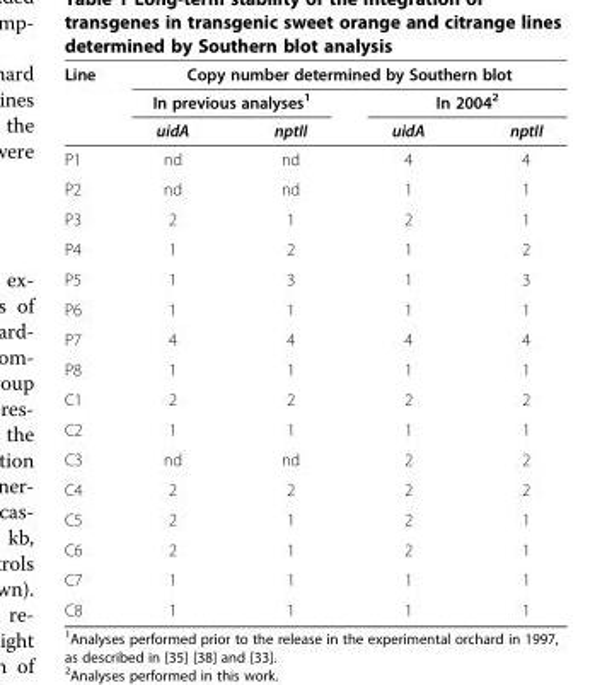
<table><thead><tr><td rowspan="3">Line</td><td colspan="4">Copy number determined by Southern blot</td></tr><tr><td colspan="2">In previous analyses<sup>1</sup></td><td colspan="2">In 2004<sup>2</sup></td></tr><tr><td>uidA</td><td>nptII</td><td>uidA</td><td>nptII</td></tr></thead><tbody><tr><td>P1</td><td>nd</td><td>nd</td><td>4</td><td>4</td></tr><tr><td>P2</td><td>nd</td><td>nd</td><td>1</td><td>1</td></tr><tr><td>P3</td><td>2</td><td>1</td><td>2</td><td>1</td></tr><tr><td>P4</td><td>1</td><td>2</td><td>1</td><td>2</td></tr><tr><td>P5</td><td>1</td><td>3</td><td>1</td><td>3</td></tr><tr><td>P6</td><td>1</td><td>1</td><td>1</td><td>1</td></tr><tr><td>P7</td><td>4</td><td>4</td><td>4</td><td>4</td></tr><tr><td>P8</td><td>1</td><td>1</td><td>1</td><td>1</td></tr><tr><td>C1</td><td>2</td><td>2</td><td>2</td><td>2</td></tr><tr><td>C2</td><td>1</td><td>1</td><td>1</td><td>1</td></tr><tr><td>C3</td><td>nd</td><td>nd</td><td>2</td><td>2</td></tr><tr><td>C4</td><td>2</td><td>2</td><td>2</td><td>2</td></tr><tr><td>C5</td><td>2</td><td>1</td><td>2</td><td>1</td></tr><tr><td>C6</td><td>2</td><td>1</td><td>2</td><td>1</td></tr><tr><td>C7</td><td>1</td><td>1</td><td>1</td><td>1</td></tr><tr><td>C8</td><td>1</td><td>1</td><td>1</td><td>1</td></tr></tbody></table>